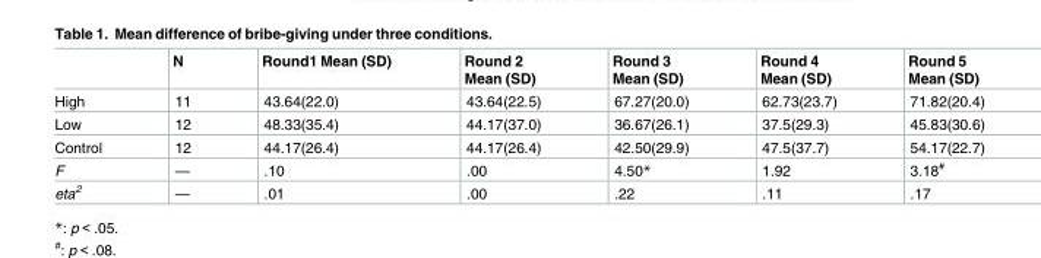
<table><thead><tr><td></td><td>N</td><td>Round1 Mean (SD)</td><td>Round 2 Mean (SD)</td><td>Round 3 Mean (SD)</td><td>Round 4 Mean (SD)</td><td>Round 5 Mean (SD)</td></tr></thead><tbody><tr><td>High</td><td>11</td><td>43.64(22.0)</td><td>43.64(22.5)</td><td>67.27(20.0)</td><td>62.73(23.7)</td><td>71.82(20.4)</td></tr><tr><td>Low</td><td>12</td><td>48.33(35.4)</td><td>44.17(37.0)</td><td>36.67(26.1)</td><td>37.5(29.3)</td><td>45.83(30.6)</td></tr><tr><td>Control</td><td>12</td><td>44.17(26.4)</td><td>44.17(26.4)</td><td>42.50(29.9)</td><td>47.5(37.7)</td><td>54.17(22.7)</td></tr><tr><td>F</td><td>—</td><td>.10</td><td>.00</td><td>4.50*</td><td>1.92</td><td>3.18<sup>#</sup></td></tr><tr><td>eta<sup>2</sup></td><td>—</td><td>.01</td><td>.00</td><td>.22</td><td>.11</td><td>.17</td></tr></tbody></table>